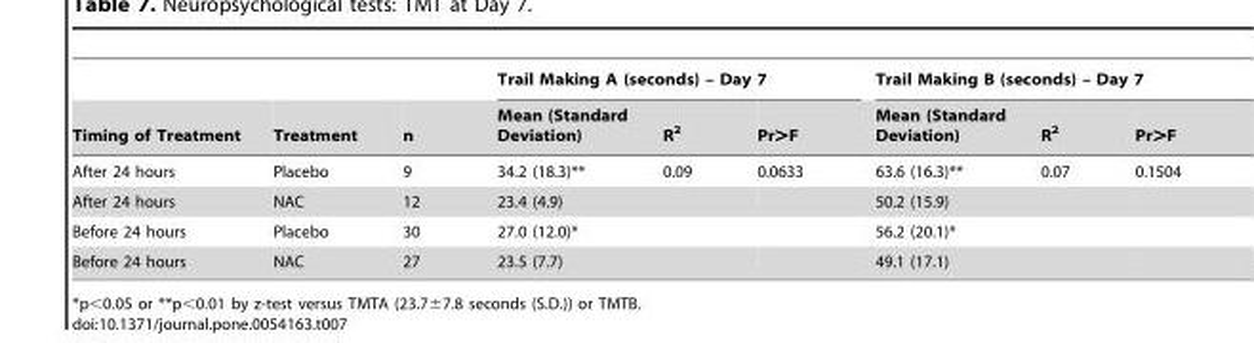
<table><thead><tr><td rowspan="2">Timing of Treatment</td><td rowspan="2">Treatment</td><td rowspan="2">n</td><td colspan="3">Trail Making A (seconds) – Day 7</td><td colspan="3">Trail Making B (seconds) – Day 7</td></tr><tr><td>Mean (Standard Deviation)</td><td>R<sup>2</sup></td><td>Pr&gt;F</td><td>Mean (Standard Deviation)</td><td>R<sup>2</sup></td><td>Pr&gt;F</td></tr></thead><tbody><tr><td>After 24 hours</td><td>Placebo</td><td>9</td><td>34.2 (18.3)**</td><td>0.09</td><td>0.0633</td><td>63.6 (16.3)**</td><td>0.07</td><td>0.1504</td></tr><tr><td>After 24 hours</td><td>NAC</td><td>12</td><td>23.4 (4.9)</td><td></td><td></td><td>50.2 (15.9)</td><td></td><td></td></tr><tr><td>Before 24 hours</td><td>Placebo</td><td>30</td><td>27.0 (12.0)*</td><td></td><td></td><td>56.2 (20.1)*</td><td></td><td></td></tr><tr><td>Before 24 hours</td><td>NAC</td><td>27</td><td>23.5 (7.7)</td><td></td><td></td><td>49.1 (17.1)</td><td></td><td></td></tr></tbody></table>